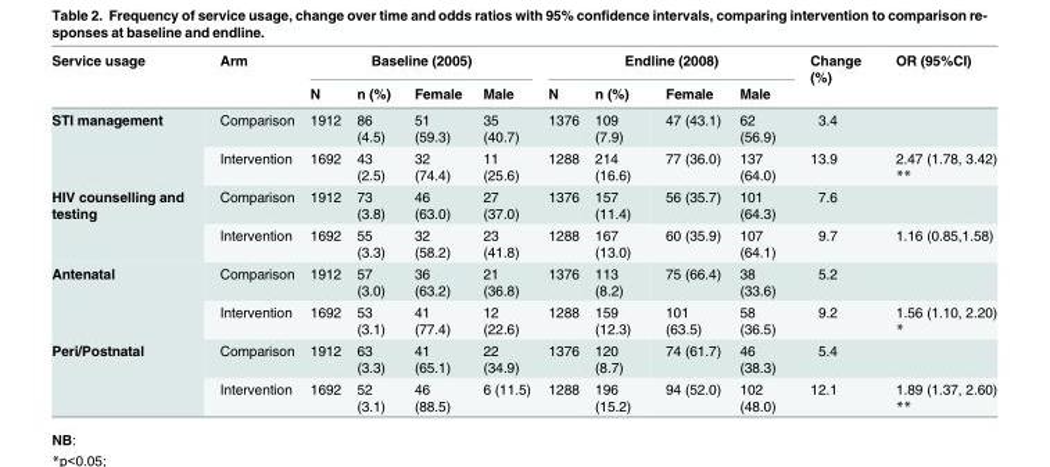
<table><thead><tr><td rowspan="2">Service usage</td><td rowspan="2">Arm</td><td colspan="4">Baseline (2005)</td><td colspan="4">Endline (2008)</td><td rowspan="2">Change (%)</td><td rowspan="2">OR (95%CI)</td></tr><tr><td>N</td><td>n (%)</td><td>Female</td><td>Male</td><td>N</td><td>n (%)</td><td>Female</td><td>Male</td></tr></thead><tbody><tr><td rowspan="2">STI management</td><td>Comparison</td><td>1912</td><td>86 (4.5)</td><td>51 (59.3)</td><td>35 (40.7)</td><td>1376</td><td>109 (7.9)</td><td>47 (43.1)</td><td>62 (56.9)</td><td>3.4</td><td></td></tr><tr><td>Intervention</td><td>1692</td><td>43 (2.5)</td><td>32 (74.4)</td><td>11 (25.6)</td><td>1288</td><td>214 (16.6)</td><td>77 (36.0)</td><td>137 (64.0)</td><td>13.9</td><td>2.47 (1.78, 3.42) **</td></tr><tr><td rowspan="2">HIV counselling and testing</td><td>Comparison</td><td>1912</td><td>73 (3.8)</td><td>46 (63.0)</td><td>27 (37.0)</td><td>1376</td><td>157 (11.4)</td><td>56 (35.7)</td><td>101 (64.3)</td><td>7.6</td><td></td></tr><tr><td>Intervention</td><td>1692</td><td>55 (3.3)</td><td>32 (58.2)</td><td>23 (41.8)</td><td>1288</td><td>167 (13.0)</td><td>60 (35.9)</td><td>107 (64.1)</td><td>9.7</td><td>1.16 (0.85,1.58)</td></tr><tr><td rowspan="2">Antenatal</td><td>Comparison</td><td>1912</td><td>57 (3.0)</td><td>36 (63.2)</td><td>21 (36.8)</td><td>1376</td><td>113 (8.2)</td><td>75 (66.4)</td><td>38 (33.6)</td><td>5.2</td><td></td></tr><tr><td>Intervention</td><td>1692</td><td>53 (3.1)</td><td>41 (77.4)</td><td>12 (22.6)</td><td>1288</td><td>159 (12.3)</td><td>101 (63.5)</td><td>58 (36.5)</td><td>9.2</td><td>1.56 (1.10, 2.20) *</td></tr><tr><td rowspan="2">Peri/Postnatal</td><td>Comparison</td><td>1912</td><td>63 (3.3)</td><td>41 (65.1)</td><td>22 (34.9)</td><td>1376</td><td>120 (8.7)</td><td>74 (61.7)</td><td>46 (38.3)</td><td>5.4</td><td></td></tr><tr><td>Intervention</td><td>1692</td><td>52 (3.1)</td><td>46 (88.5)</td><td>6 (11.5)</td><td>1288</td><td>196 (15.2)</td><td>94 (52.0)</td><td>102 (48.0)</td><td>12.1</td><td>1.89 (1.37, 2.60) **</td></tr></tbody></table>